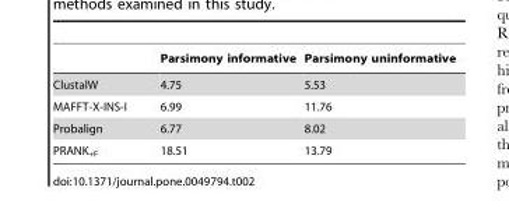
<table><thead><tr><td></td><td>Parsimony informative</td><td>Parsimony uninformative</td></tr></thead><tbody><tr><td>ClustalW</td><td>4.75</td><td>5.53</td></tr><tr><td>MAFFT-X-INS-I</td><td>6.99</td><td>11.76</td></tr><tr><td>Probalign</td><td>6.77</td><td>8.02</td></tr><tr><td>PRANK<sub>+F</sub></td><td>18.51</td><td>13.79</td></tr></tbody></table>